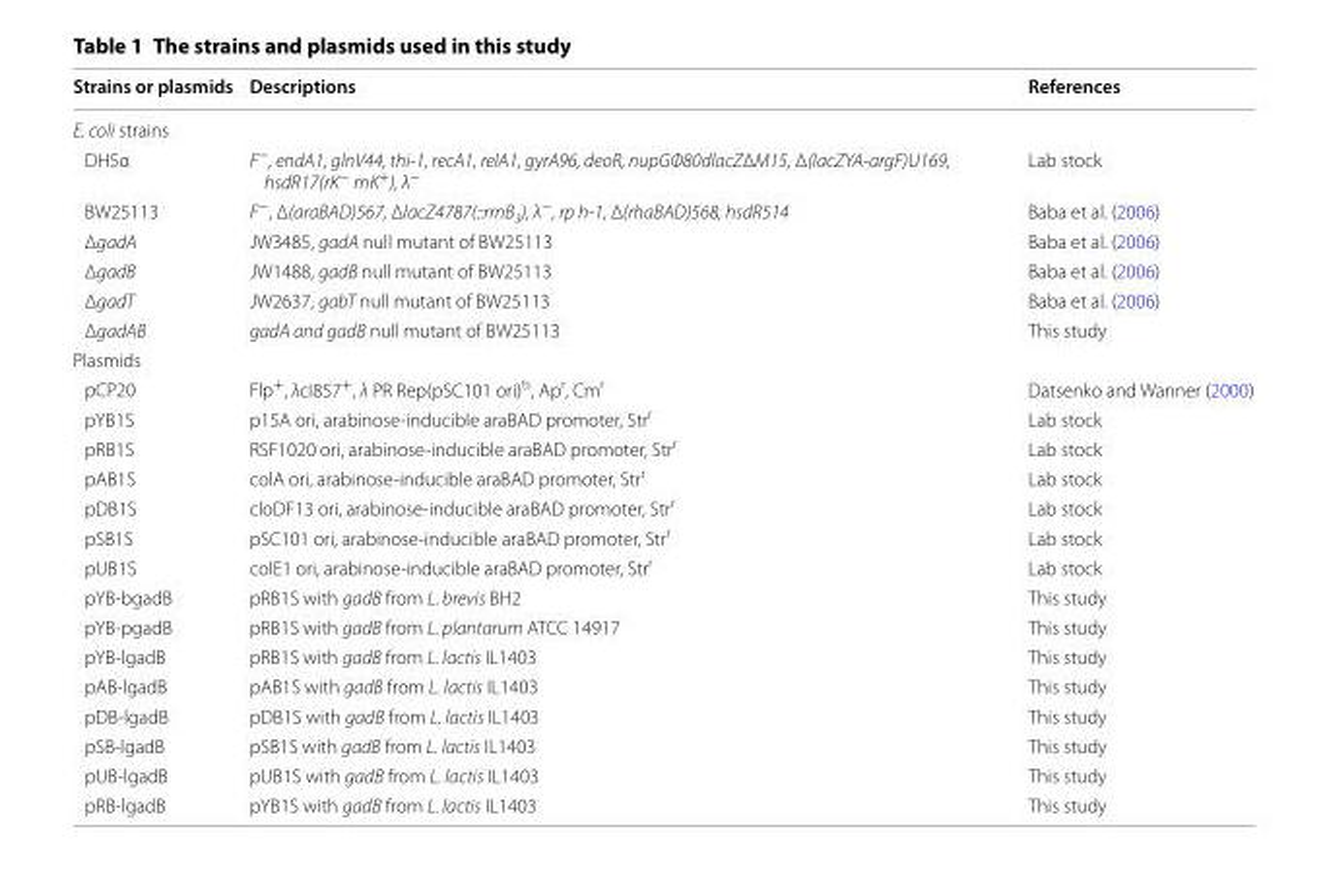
<table><thead><tr><td>Strains or plasmids</td><td>Descriptions</td><td>References</td></tr></thead><tbody><tr><td colspan="3">E. coli strains</td></tr><tr><td>DH5α</td><td>F<sup>−</sup>, endA1, glnV44, thi-1, recA1, relA1, gyrA96, deoR, nupGΦ80dlacZΔM15, Δ(lacZYA-argF)U169, hsdR17(rK<sup>−</sup> mK<sup>+</sup>), λ<sup>−</sup></td><td>Lab stock</td></tr><tr><td>BW25113</td><td>F<sup>−</sup>, Δ(araBAD)567, ΔlacZ4787(::rrnB<sub>3</sub>), λ<sup>−</sup>, rp h-1, Δ(rhaBAD)568, hsdR514</td><td>Baba et al. (2006)</td></tr><tr><td>ΔgadA</td><td>JW3485, gadA null mutant of BW25113</td><td>Baba et al. (2006)</td></tr><tr><td>ΔgadB</td><td>JW1488, gadB null mutant of BW25113</td><td>Baba et al. (2006)</td></tr><tr><td>ΔgadT</td><td>JW2637, gabT null mutant of BW25113</td><td>Baba et al. (2006)</td></tr><tr><td>ΔgadAB</td><td>gadA and gadB null mutant of BW25113</td><td>This study</td></tr><tr><td colspan="3">Plasmids</td></tr><tr><td>pCP20</td><td>Flp<sup>+</sup>, λcI857<sup>+</sup>, λ PR Rep(pSC101 ori)<sup>ts</sup>, Ap<sup>r</sup>, Cm<sup>r</sup></td><td>Datsenko and Wanner (2000)</td></tr><tr><td>pYB1S</td><td>p15A ori, arabinose-inducible araBAD promoter, Str<sup>r</sup></td><td>Lab stock</td></tr><tr><td>pRB1S</td><td>RSF1020 ori, arabinose-inducible araBAD promoter, Str<sup>r</sup></td><td>Lab stock</td></tr><tr><td>pAB1S</td><td>colA ori, arabinose-inducible araBAD promoter, Str<sup>r</sup></td><td>Lab stock</td></tr><tr><td>pDB1S</td><td>cloDF13 ori, arabinose-inducible araBAD promoter, Str<sup>r</sup></td><td>Lab stock</td></tr><tr><td>pSB1S</td><td>pSC101 ori, arabinose-inducible araBAD promoter, Str<sup>r</sup></td><td>Lab stock</td></tr><tr><td>pUB1S</td><td>colE1 ori, arabinose-inducible araBAD promoter, Str<sup>r</sup></td><td>Lab stock</td></tr><tr><td>pYB-bgadB</td><td>pRB1S with gadB from L. brevis BH2</td><td>This study</td></tr><tr><td>pYB-pgadB</td><td>pRB1S with gadB from L. plantarum ATCC 14917</td><td>This study</td></tr><tr><td>pYB-lgadB</td><td>pRB1S with gadB from L. lactis IL1403</td><td>This study</td></tr><tr><td>pAB-lgadB</td><td>pAB1S with gadB from L. lactis IL1403</td><td>This study</td></tr><tr><td>pDB-lgadB</td><td>pDB1S with gadB from L. lactis IL1403</td><td>This study</td></tr><tr><td>pSB-lgadB</td><td>pSB1S with gadB from L. lactis IL1403</td><td>This study</td></tr><tr><td>pUB-lgadB</td><td>pUB1S with gadB from L. lactis IL1403</td><td>This study</td></tr><tr><td>pRB-lgadB</td><td>pYB1S with gadB from L. lactis IL1403</td><td>This study</td></tr></tbody></table>